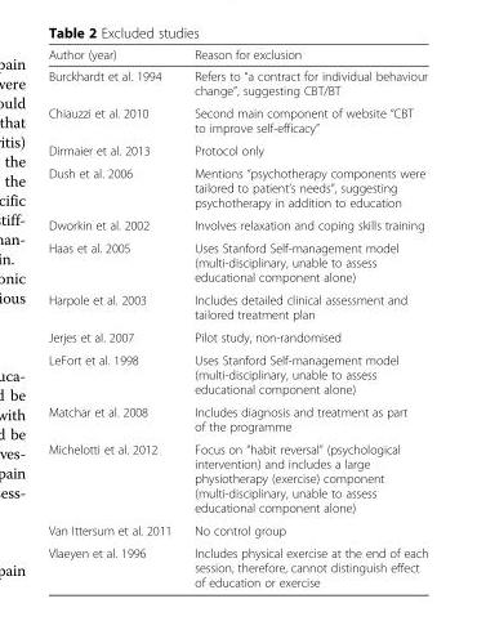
<table><thead><tr><td>Author (year)</td><td>Reason for exclusion</td></tr></thead><tbody><tr><td>Burckhardt et al. 1994</td><td>Refers to “a contract for individual behaviour change”, suggesting CBT/BT</td></tr><tr><td>Chiauzzi et al. 2010</td><td>Second main component of website “CBT to improve self-efficacy”</td></tr><tr><td>Dirmaier et al. 2013</td><td>Protocol only</td></tr><tr><td>Dush et al. 2006</td><td>Mentions “psychotherapy components were tailored to patient’s needs”, suggesting psychotherapy in addition to education</td></tr><tr><td>Dworkin et al. 2002</td><td>Involves relaxation and coping skills training</td></tr><tr><td>Haas et al. 2005</td><td>Uses Stanford Self-management model (multi-disciplinary, unable to assess educational component alone)</td></tr><tr><td>Harpole et al. 2003</td><td>Includes detailed clinical assessment and tailored treatment plan</td></tr><tr><td>Jerjes et al. 2007</td><td>Pilot study, non-randomised</td></tr><tr><td>LeFort et al. 1998</td><td>Uses Stanford Self-management model (multi-disciplinary, unable to assess educational component alone)</td></tr><tr><td>Matchar et al. 2008</td><td>Includes diagnosis and treatment as part of the programme</td></tr><tr><td>Michelotti et al. 2012</td><td>Focus on “habit reversal” (psychological intervention) and includes a large physiotherapy (exercise) component (multi-disciplinary, unable to assess educational component alone)</td></tr><tr><td>Van Ittersum et al. 2011</td><td>No control group</td></tr><tr><td>Vlaeyen et al. 1996</td><td>Includes physical exercise at the end of each session, therefore, cannot distinguish effect of education or exercise</td></tr></tbody></table>